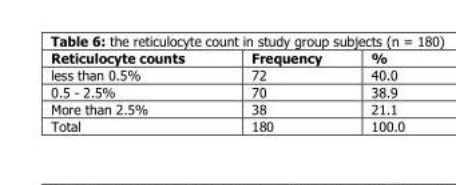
<table><thead><tr><td>Reticulocyte counts</td><td>Frequency</td><td>%</td></tr></thead><tbody><tr><td>less than 0.5%</td><td>72</td><td>40.0</td></tr><tr><td>0.5 - 2.5%</td><td>70</td><td>38.9</td></tr><tr><td>More than 2.5%</td><td>38</td><td>21.1</td></tr><tr><td>Total</td><td>180</td><td>100.0</td></tr></tbody></table>